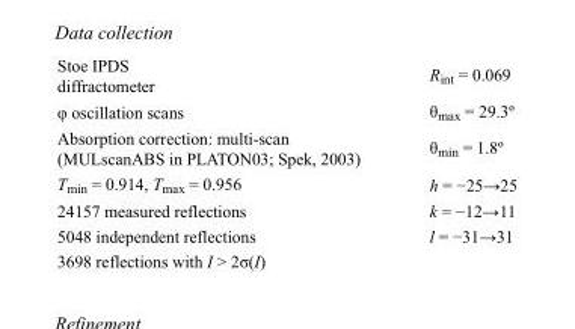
<table><tbody><tr><td>Stoe IPDS diffractometer</td><td>R<sub>int</sub> = 0.069</td></tr><tr><td>φ oscillation scans</td><td>θ<sub>max</sub> = 29.3º</td></tr><tr><td>Absorption correction: multi-scan (MULscanABS in PLATON03; Spek, 2003)</td><td>θ<sub>min</sub> = 1.8º</td></tr><tr><td>T<sub>min</sub> = 0.914, T<sub>max</sub> = 0.956</td><td>h = −25→25</td></tr><tr><td>24157 measured reflections</td><td>k = −12→11</td></tr><tr><td>5048 independent reflections</td><td>l = −31→31</td></tr><tr><td>3698 reflections with I &gt; 2σ(I)</td><td></td></tr></tbody></table>